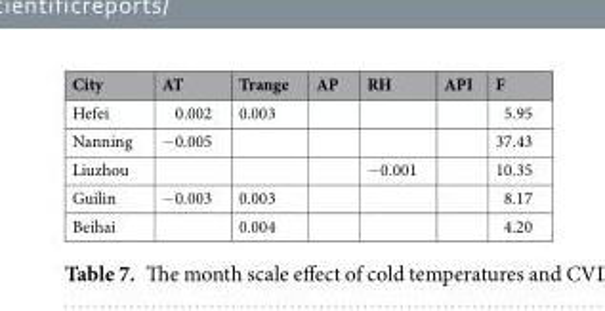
<table><thead><tr><td>City</td><td>AT</td><td>Trange</td><td>AP</td><td>RH</td><td>API</td><td>F</td></tr></thead><tbody><tr><td>Hefei</td><td>0.002</td><td>0.003</td><td></td><td></td><td></td><td>5.95</td></tr><tr><td>Nanning</td><td>−0.005</td><td></td><td></td><td></td><td></td><td>37.43</td></tr><tr><td>Liuzhou</td><td></td><td></td><td></td><td>−0.001</td><td></td><td>10.35</td></tr><tr><td>Guilin</td><td>−0.003</td><td>0.003</td><td></td><td></td><td></td><td>8.17</td></tr><tr><td>Beihai</td><td></td><td>0.004</td><td></td><td></td><td></td><td>4.20</td></tr></tbody></table>